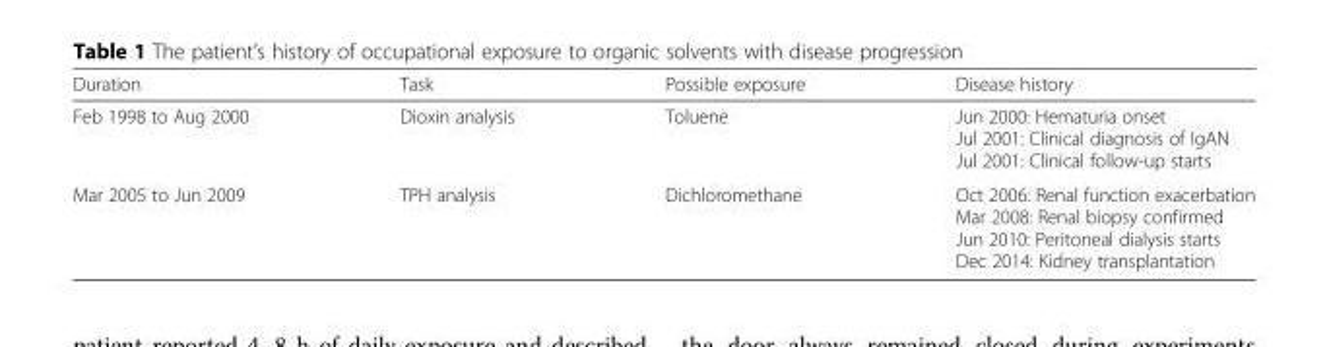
<table><thead><tr><td>Duration</td><td>Task</td><td>Possible exposure</td><td>Disease history</td></tr></thead><tbody><tr><td>Feb 1998 to Aug 2000</td><td>Dioxin analysis</td><td>Toluene</td><td>Jun 2000: Hematuria onset Jul 2001: Clinical diagnosis of IgAN Jul 2001: Clinical follow-up starts</td></tr><tr><td>Mar 2005 to Jun 2009</td><td>TPH analysis</td><td>Dichloromethane</td><td>Oct 2006: Renal function exacerbation Mar 2008: Renal biopsy confirmed Jun 2010: Peritoneal dialysis starts Dec 2014: Kidney transplantation</td></tr></tbody></table>